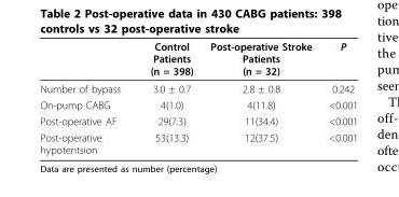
<table><thead><tr><td></td><td>Control Patients (n = 398)</td><td>Post-operative Stroke Patients (n = 32)</td><td>P</td></tr></thead><tbody><tr><td>Number of bypass</td><td>3.0 ± 0.7</td><td>2.8 ± 0.8</td><td>0.242</td></tr><tr><td>On-pump CABG</td><td>4(1.0)</td><td>4(11.8)</td><td>&lt;0.001</td></tr><tr><td>Post-operative AF</td><td>29(7.3)</td><td>11(34.4)</td><td>&lt;0.001</td></tr><tr><td>Post-operative hypotentsion</td><td>53(13.3)</td><td>12(37.5)</td><td>&lt;0.001</td></tr></tbody></table>